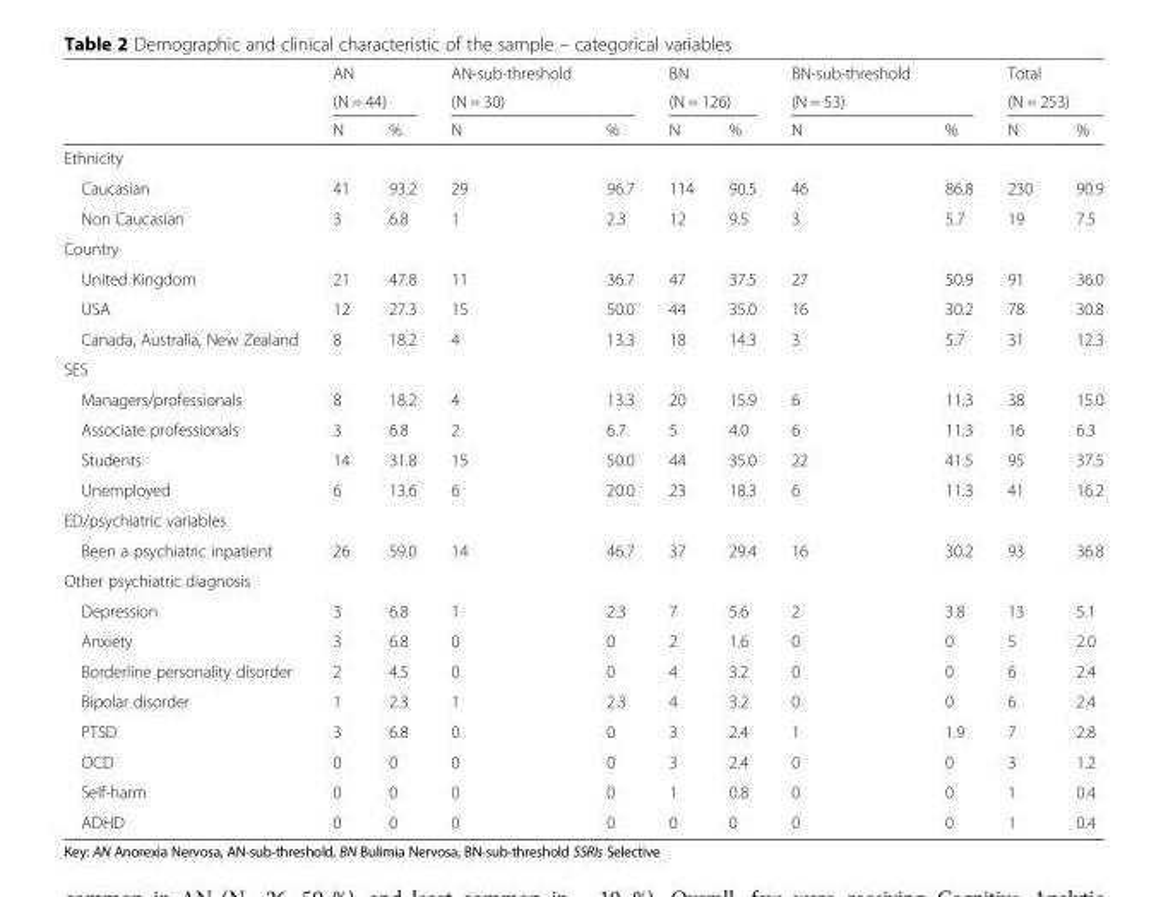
<table><thead><tr><td rowspan="3"></td><td>AN</td><td></td><td>AN-sub-threshold</td><td></td><td>BN</td><td></td><td>BN-sub-threshold</td><td></td><td>Total</td><td></td></tr><tr><td colspan="2">(N = 44)</td><td colspan="2">(N = 30)</td><td colspan="2">(N = 126)</td><td colspan="2">(N = 53)</td><td colspan="2">(N = 253)</td></tr><tr><td>N</td><td>%</td><td>N</td><td>%</td><td>N</td><td>%</td><td>N</td><td>%</td><td>N</td><td>%</td></tr></thead><tbody><tr><td colspan="11">Ethnicity</td></tr><tr><td>Caucasian</td><td>41</td><td>93.2</td><td>29</td><td>96.7</td><td>114</td><td>90.5</td><td>46</td><td>86.8</td><td>230</td><td>90.9</td></tr><tr><td>Non Caucasian</td><td>3</td><td>6.8</td><td>1</td><td>2.3</td><td>12</td><td>9.5</td><td>3</td><td>5.7</td><td>19</td><td>7.5</td></tr><tr><td colspan="11">Country</td></tr><tr><td>United Kingdom</td><td>21</td><td>47.8</td><td>11</td><td>36.7</td><td>47</td><td>37.5</td><td>27</td><td>50.9</td><td>91</td><td>36.0</td></tr><tr><td>USA</td><td>12</td><td>27.3</td><td>15</td><td>50.0</td><td>44</td><td>35.0</td><td>16</td><td>30.2</td><td>78</td><td>30.8</td></tr><tr><td>Canada, Australia, New Zealand</td><td>8</td><td>18.2</td><td>4</td><td>13.3</td><td>18</td><td>14.3</td><td>3</td><td>5.7</td><td>31</td><td>12.3</td></tr><tr><td colspan="11">SES</td></tr><tr><td>Managers/professionals</td><td>8</td><td>18.2</td><td>4</td><td>13.3</td><td>20</td><td>15.9</td><td>6</td><td>11.3</td><td>38</td><td>15.0</td></tr><tr><td>Associate professionals</td><td>3</td><td>6.8</td><td>2</td><td>6.7</td><td>5</td><td>4.0</td><td>6</td><td>11.3</td><td>16</td><td>6.3</td></tr><tr><td>Students</td><td>14</td><td>31.8</td><td>15</td><td>50.0</td><td>44</td><td>35.0</td><td>22</td><td>41.5</td><td>95</td><td>37.5</td></tr><tr><td>Unemployed</td><td>6</td><td>13.6</td><td>6</td><td>20.0</td><td>23</td><td>18.3</td><td>6</td><td>11.3</td><td>41</td><td>16.2</td></tr><tr><td colspan="11">ED/psychiatric variables</td></tr><tr><td>Been a psychiatric inpatient</td><td>26</td><td>59.0</td><td>14</td><td>46.7</td><td>37</td><td>29.4</td><td>16</td><td>30.2</td><td>93</td><td>36.8</td></tr><tr><td colspan="11">Other psychiatric diagnosis</td></tr><tr><td>Depression</td><td>3</td><td>6.8</td><td>1</td><td>2.3</td><td>7</td><td>5.6</td><td>2</td><td>3.8</td><td>13</td><td>5.1</td></tr><tr><td>Anxiety</td><td>3</td><td>6.8</td><td>0</td><td>0</td><td>2</td><td>1.6</td><td>0</td><td>0</td><td>5</td><td>2.0</td></tr><tr><td>Borderline personality disorder</td><td>2</td><td>4.5</td><td>0</td><td>0</td><td>4</td><td>3.2</td><td>0</td><td>0</td><td>6</td><td>2.4</td></tr><tr><td>Bipolar disorder</td><td>1</td><td>2.3</td><td>1</td><td>2.3</td><td>4</td><td>3.2</td><td>0</td><td>0</td><td>6</td><td>2.4</td></tr><tr><td>PTSD</td><td>3</td><td>6.8</td><td>0</td><td>0</td><td>3</td><td>2.4</td><td>1</td><td>1.9</td><td>7</td><td>2.8</td></tr><tr><td>OCD</td><td>0</td><td>0</td><td>0</td><td>0</td><td>3</td><td>2.4</td><td>0</td><td>0</td><td>3</td><td>1.2</td></tr><tr><td>Self-harm</td><td>0</td><td>0</td><td>0</td><td>0</td><td>1</td><td>0.8</td><td>0</td><td>0</td><td>1</td><td>0.4</td></tr><tr><td>ADHD</td><td>0</td><td>0</td><td>0</td><td>0</td><td>0</td><td>0</td><td>0</td><td>0</td><td>1</td><td>0.4</td></tr></tbody></table>